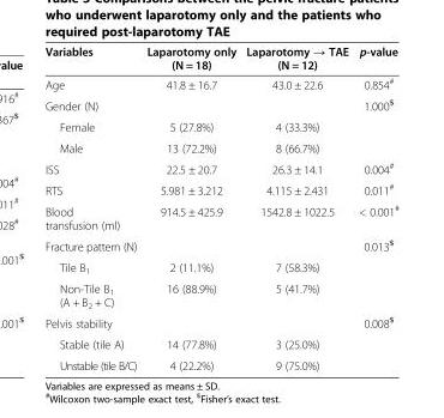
<table><thead><tr><td>Variables</td><td>Laparotomy only (N = 18)</td><td>Laparotomy → TAE (N = 12)</td><td>p-value</td></tr></thead><tbody><tr><td>Age</td><td>41.8 ± 16.7</td><td>43.0 ± 22.6</td><td>0.854<sup>#</sup></td></tr><tr><td>Gender (N)</td><td></td><td></td><td>1.000<sup>$</sup></td></tr><tr><td>Female</td><td>5 (27.8%)</td><td>4 (33.3%)</td><td></td></tr><tr><td>Male</td><td>13 (72.2%)</td><td>8 (66.7%)</td><td></td></tr><tr><td>ISS</td><td>22.5 ± 20.7</td><td>26.3 ± 14.1</td><td>0.004<sup>#</sup></td></tr><tr><td>RTS</td><td>5.981 ± 3.212</td><td>4.115 ± 2.431</td><td>0.011<sup>#</sup></td></tr><tr><td>Blood transfusion (ml)</td><td>914.5 ± 425.9</td><td>1542.8 ± 1022.5</td><td>&lt; 0.001<sup>#</sup></td></tr><tr><td>Fracture pattern (N)</td><td></td><td></td><td>0.013<sup>$</sup></td></tr><tr><td>Tile B<sub>1</sub></td><td>2 (11.1%)</td><td>7 (58.3%)</td><td></td></tr><tr><td>Non-Tile B<sub>1</sub> (A + B<sub>2</sub> + C)</td><td>16 (88.9%)</td><td>5 (41.7%)</td><td></td></tr><tr><td>Pelvis stability</td><td></td><td></td><td>0.008<sup>$</sup></td></tr><tr><td>Stable (tile A)</td><td>14 (77.8%)</td><td>3 (25.0%)</td><td></td></tr><tr><td>Unstable (tile B/C)</td><td>4 (22.2%)</td><td>9 (75.0%)</td><td></td></tr></tbody></table>